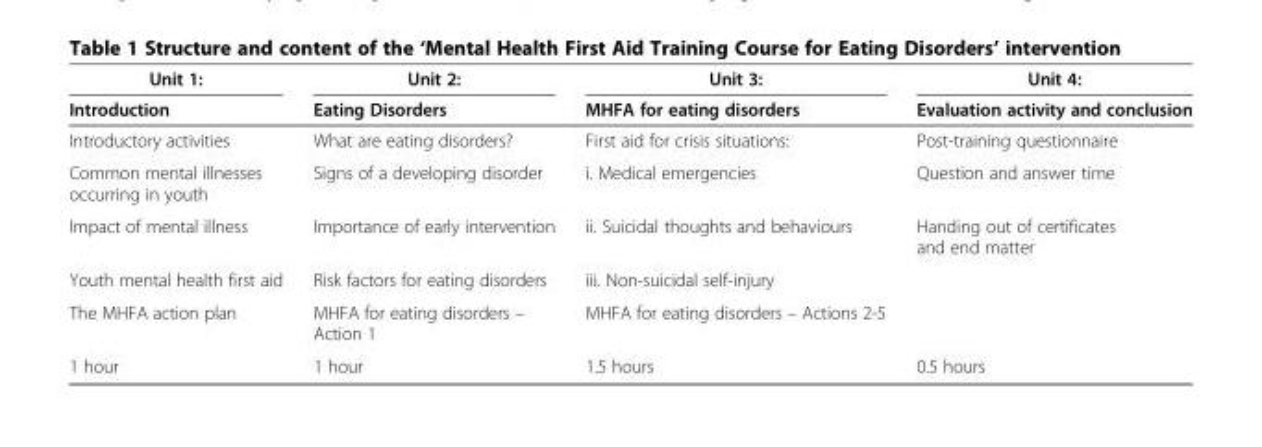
<table><thead><tr><td rowspan="2">Unit 1: Introduction</td><td rowspan="2">Unit 2: Eating Disorders</td><td rowspan="2">Unit 3: MHFA for eating disorders</td><td rowspan="2">Unit 4: Evaluation activity and conclusion</td></tr><tr></tr></thead><tbody><tr><td>Introductory activities</td><td>What are eating disorders?</td><td>First aid for crisis situations:</td><td>Post-training questionnaire</td></tr><tr><td>Common mental illnesses occurring in youth</td><td>Signs of a developing disorder</td><td>i. Medical emergencies</td><td>Question and answer time</td></tr><tr><td>Impact of mental illness</td><td>Importance of early intervention</td><td>ii. Suicidal thoughts and behaviours</td><td>Handing out of certificates and end matter</td></tr><tr><td>Youth mental health first aid</td><td>Risk factors for eating disorders</td><td>iii. Non-suicidal self-injury</td><td></td></tr><tr><td>The MHFA action plan</td><td>MHFA for eating disorders – Action 1</td><td>MHFA for eating disorders – Actions 2-5</td><td></td></tr><tr><td>1 hour</td><td>1 hour</td><td>1.5 hours</td><td>0.5 hours</td></tr></tbody></table>